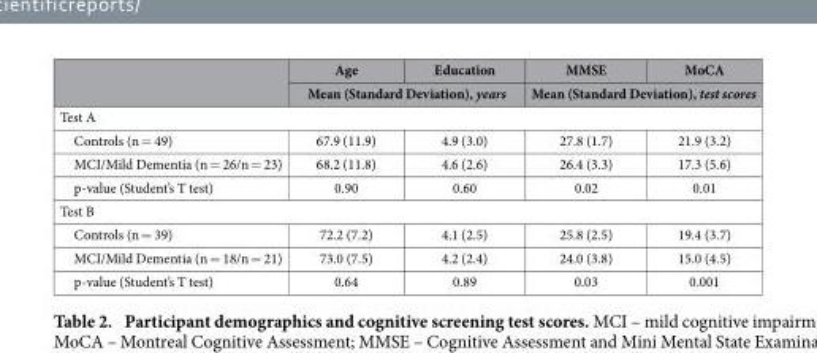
<table><thead><tr><td rowspan="2"></td><td>Age</td><td>Education</td><td>MMSE</td><td>MoCA</td></tr><tr><td colspan="2">Mean (Standard Deviation), years</td><td colspan="2">Mean (Standard Deviation), test scores</td></tr></thead><tbody><tr><td colspan="5">Test A</td></tr><tr><td>Controls (n = 49)</td><td>67.9 (11.9)</td><td>4.9 (3.0)</td><td>27.8 (1.7)</td><td>21.9 (3.2)</td></tr><tr><td>MCI/Mild Dementia (n = 26/n = 23)</td><td>68.2 (11.8)</td><td>4.6 (2.6)</td><td>26.4 (3.3)</td><td>17.3 (5.6)</td></tr><tr><td>p-value (Student’s T test)</td><td>0.90</td><td>0.60</td><td>0.02</td><td>0.01</td></tr><tr><td colspan="5">Test B</td></tr><tr><td>Controls (n = 39)</td><td>72.2 (7.2)</td><td>4.1 (2.5)</td><td>25.8 (2.5)</td><td>19.4 (3.7)</td></tr><tr><td>MCI/Mild Dementia (n = 18/n = 21)</td><td>73.0 (7.5)</td><td>4.2 (2.4)</td><td>24.0 (3.8)</td><td>15.0 (4.5)</td></tr><tr><td>p-value (Student’s T test)</td><td>0.64</td><td>0.89</td><td>0.03</td><td>0.001</td></tr></tbody></table>